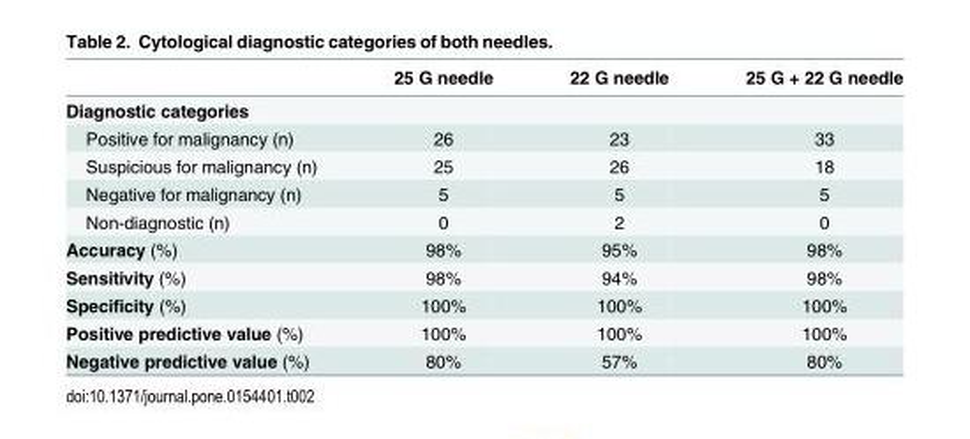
<table><thead><tr><td></td><td>25 G needle</td><td>22 G needle</td><td>25 G + 22 G needle</td></tr></thead><tbody><tr><td colspan="4">Diagnostic categories</td></tr><tr><td>Positive for malignancy (n)</td><td>26</td><td>23</td><td>33</td></tr><tr><td>Suspicious for malignancy (n)</td><td>25</td><td>26</td><td>18</td></tr><tr><td>Negative for malignancy (n)</td><td>5</td><td>5</td><td>5</td></tr><tr><td>Non-diagnostic (n)</td><td>0</td><td>2</td><td>0</td></tr><tr><td>Accuracy (%)</td><td>98%</td><td>95%</td><td>98%</td></tr><tr><td>Sensitivity (%)</td><td>98%</td><td>94%</td><td>98%</td></tr><tr><td>Specificity (%)</td><td>100%</td><td>100%</td><td>100%</td></tr><tr><td>Positive predictive value (%)</td><td>100%</td><td>100%</td><td>100%</td></tr><tr><td>Negative predictive value (%)</td><td>80%</td><td>57%</td><td>80%</td></tr></tbody></table>